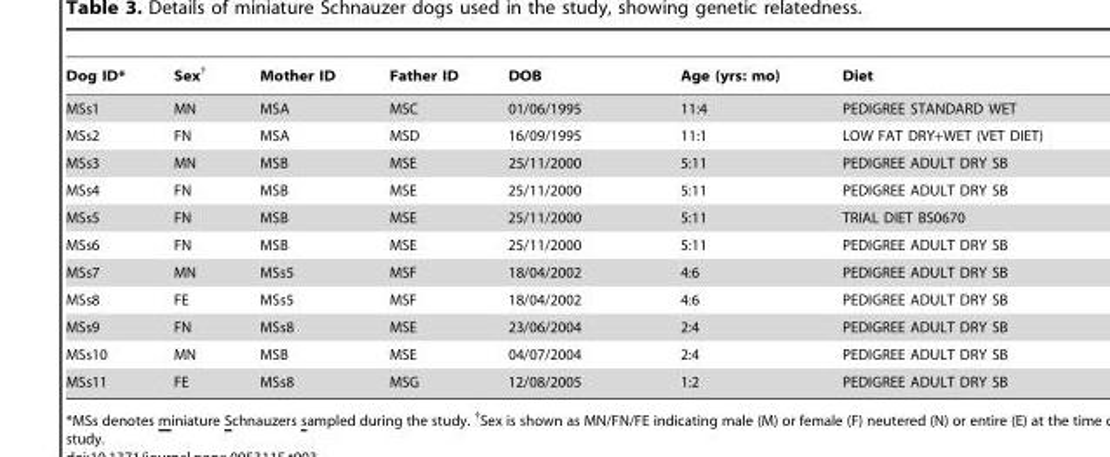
<table><thead><tr><td>Dog ID*</td><td>Sex<sup>†</sup></td><td>Mother ID</td><td>Father ID</td><td>DOB</td><td>Age (yrs: mo)</td><td>Diet</td></tr></thead><tbody><tr><td>MSs1</td><td>MN</td><td>MSA</td><td>MSC</td><td>01/06/1995</td><td>11:4</td><td>PEDIGREE STANDARD WET</td></tr><tr><td>MSs2</td><td>FN</td><td>MSA</td><td>MSD</td><td>16/09/1995</td><td>11:1</td><td>LOW FAT DRY+WET (VET DIET)</td></tr><tr><td>MSs3</td><td>MN</td><td>MSB</td><td>MSE</td><td>25/11/2000</td><td>5:11</td><td>PEDIGREE ADULT DRY SB</td></tr><tr><td>MSs4</td><td>FN</td><td>MSB</td><td>MSE</td><td>25/11/2000</td><td>5:11</td><td>PEDIGREE ADULT DRY SB</td></tr><tr><td>MSs5</td><td>FN</td><td>MSB</td><td>MSE</td><td>25/11/2000</td><td>5:11</td><td>TRIAL DIET BS0670</td></tr><tr><td>MSs6</td><td>FN</td><td>MSB</td><td>MSE</td><td>25/11/2000</td><td>5:11</td><td>PEDIGREE ADULT DRY SB</td></tr><tr><td>MSs7</td><td>MN</td><td>MSs5</td><td>MSF</td><td>18/04/2002</td><td>4:6</td><td>PEDIGREE ADULT DRY SB</td></tr><tr><td>MSs8</td><td>FE</td><td>MSs5</td><td>MSF</td><td>18/04/2002</td><td>4:6</td><td>PEDIGREE ADULT DRY SB</td></tr><tr><td>MSs9</td><td>FN</td><td>MSs8</td><td>MSE</td><td>23/06/2004</td><td>2:4</td><td>PEDIGREE ADULT DRY SB</td></tr><tr><td>MSs10</td><td>MN</td><td>MSB</td><td>MSE</td><td>04/07/2004</td><td>2:4</td><td>PEDIGREE ADULT DRY SB</td></tr><tr><td>MSs11</td><td>FE</td><td>MSs8</td><td>MSG</td><td>12/08/2005</td><td>1:2</td><td>PEDIGREE ADULT DRY SB</td></tr></tbody></table>